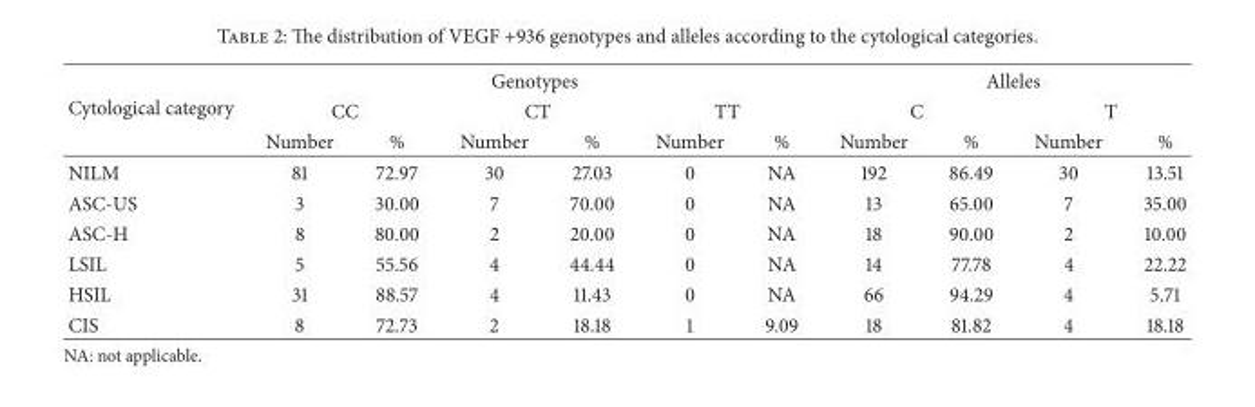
<table><thead><tr><td rowspan="3">Cytological category</td><td colspan="6">Genotypes</td><td colspan="4">Alleles</td></tr><tr><td colspan="2">CC</td><td colspan="2">CT</td><td colspan="2">TT</td><td colspan="2">C</td><td colspan="2">T</td></tr><tr><td>Number</td><td>%</td><td>Number</td><td>%</td><td>Number</td><td>%</td><td>Number</td><td>%</td><td>Number</td><td>%</td></tr></thead><tbody><tr><td>NILM</td><td>81</td><td>72.97</td><td>30</td><td>27.03</td><td>0</td><td>NA</td><td>192</td><td>86.49</td><td>30</td><td>13.51</td></tr><tr><td>ASC-US</td><td>3</td><td>30.00</td><td>7</td><td>70.00</td><td>0</td><td>NA</td><td>13</td><td>65.00</td><td>7</td><td>35.00</td></tr><tr><td>ASC-H</td><td>8</td><td>80.00</td><td>2</td><td>20.00</td><td>0</td><td>NA</td><td>18</td><td>90.00</td><td>2</td><td>10.00</td></tr><tr><td>LSIL</td><td>5</td><td>55.56</td><td>4</td><td>44.44</td><td>0</td><td>NA</td><td>14</td><td>77.78</td><td>4</td><td>22.22</td></tr><tr><td>HSIL</td><td>31</td><td>88.57</td><td>4</td><td>11.43</td><td>0</td><td>NA</td><td>66</td><td>94.29</td><td>4</td><td>5.71</td></tr><tr><td>CIS</td><td>8</td><td>72.73</td><td>2</td><td>18.18</td><td>1</td><td>9.09</td><td>18</td><td>81.82</td><td>4</td><td>18.18</td></tr></tbody></table>